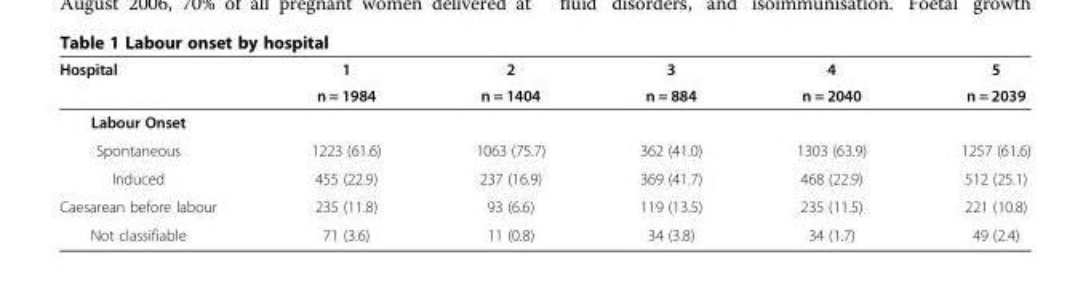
<table><thead><tr><td rowspan="2">Hospital</td><td rowspan="2">1 n = 1984</td><td rowspan="2">2 n = 1404</td><td rowspan="2">3 n = 884</td><td rowspan="2">4 n = 2040</td><td rowspan="2">5 n = 2039</td></tr><tr></tr></thead><tbody><tr><td colspan="6">Labour Onset</td></tr><tr><td>Spontaneous</td><td>1223 (61.6)</td><td>1063 (75.7)</td><td>362 (41.0)</td><td>1303 (63.9)</td><td>1257 (61.6)</td></tr><tr><td>Induced</td><td>455 (22.9)</td><td>237 (16.9)</td><td>369 (41.7)</td><td>468 (22.9)</td><td>512 (25.1)</td></tr><tr><td>Caesarean before labour</td><td>235 (11.8)</td><td>93 (6.6)</td><td>119 (13.5)</td><td>235 (11.5)</td><td>221 (10.8)</td></tr><tr><td>Not classifiable</td><td>71 (3.6)</td><td>11 (0.8)</td><td>34 (3.8)</td><td>34 (1.7)</td><td>49 (2.4)</td></tr></tbody></table>